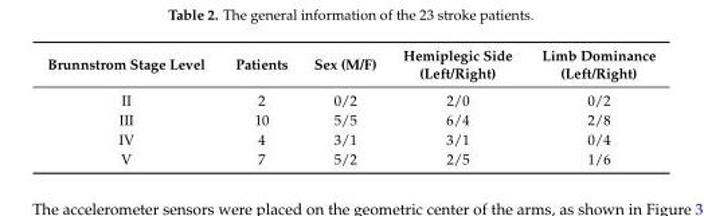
<table><thead><tr><td>Brunnstrom Stage Level</td><td>Patients</td><td>Sex (M/F)</td><td>Hemiplegic Side (Left/Right)</td><td>Limb Dominance (Left/Right)</td></tr></thead><tbody><tr><td>II</td><td>2</td><td>0/2</td><td>2/0</td><td>0/2</td></tr><tr><td>III</td><td>10</td><td>5/5</td><td>6/4</td><td>2/8</td></tr><tr><td>IV</td><td>4</td><td>3/1</td><td>3/1</td><td>0/4</td></tr><tr><td>V</td><td>7</td><td>5/2</td><td>2/5</td><td>1/6</td></tr></tbody></table>